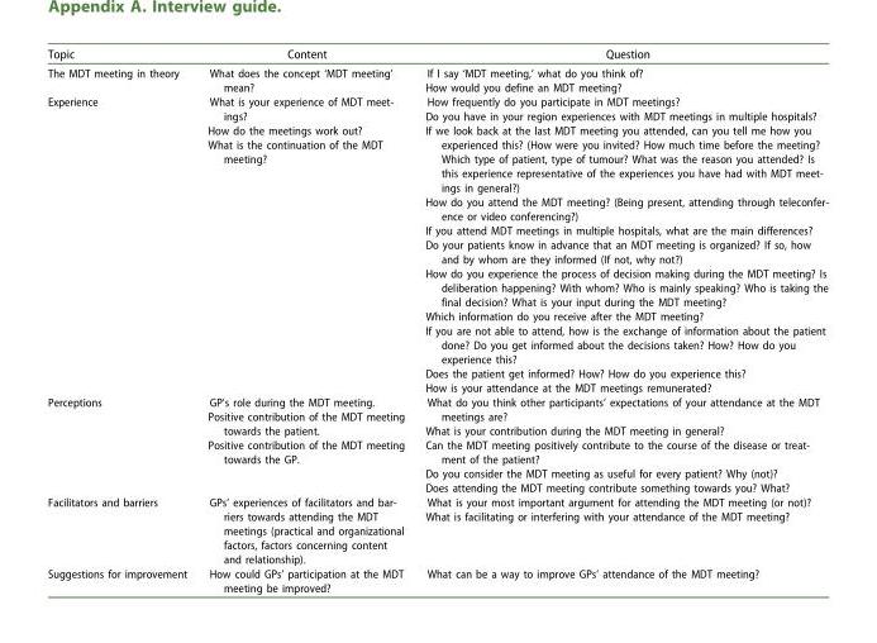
<table><thead><tr><td>Topic</td><td>Content</td><td>Question</td></tr></thead><tbody><tr><td>The MDT meeting in theory</td><td>What does the concept ‘MDT meeting’ mean?</td><td>If I say ‘MDT meeting,’ what do you think of? How would you define an MDT meeting?</td></tr><tr><td>Experience</td><td>What is your experience of MDT meet- ings? How do the meetings work out? What is the continuation of the MDT meeting?</td><td>How frequently do you participate in MDT meetings? Do you have in your region experiences with MDT meetings in multiple hospitals? If we look back at the last MDT meeting you attended, can you tell me how you experienced this? (How were you invited? How much time before the meeting? Which type of patient, type of tumour? What was the reason you attended? Is this experience representative of the experiences you have had with MDT meet- ings in general?) How do you attend the MDT meeting? (Being present, attending through teleconfer- ence or video conferencing?) If you attend MDT meetings in multiple hospitals, what are the main differences? Do your patients know in advance that an MDT meeting is organized? If so, how and by whom are they informed (If not, why not?) How do you experience the process of decision making during the MDT meeting? Is deliberation happening? With whom? Who is mainly speaking? Who is taking the final decision? What is your input during the MDT meeting? Which information do you receive after the MDT meeting? If you are not able to attend, how is the exchange of information about the patient done? Do you get informed about the decisions taken? How? How do you experience this? Does the patient get informed? How? How do you experience this? How is your attendance at the MDT meetings remunerated?</td></tr><tr><td>Perceptions</td><td>GP’s role during the MDT meeting. Positive contribution of the MDT meeting towards the patient. Positive contribution of the MDT meeting towards the GP.</td><td>What do you think other participants’ expectations of your attendance at the MDT meetings are? What is your contribution during the MDT meeting in general? Can the MDT meeting positively contribute to the course of the disease or treat- ment of the patient? Do you consider the MDT meeting as useful for every patient? Why (not)? Does attending the MDT meeting contribute something towards you? What?</td></tr><tr><td>Facilitators and barriers</td><td>GPs’ experiences of facilitators and bar- riers towards attending the MDT meetings (practical and organizational factors, factors concerning content and relationship).</td><td>What is your most important argument for attending the MDT meeting (or not)? What is facilitating or interfering with your attendance of the MDT meeting?</td></tr><tr><td>Suggestions for improvement</td><td>How could GPs’ participation at the MDT meeting be improved?</td><td>What can be a way to improve GPs’ attendance of the MDT meeting?</td></tr></tbody></table>